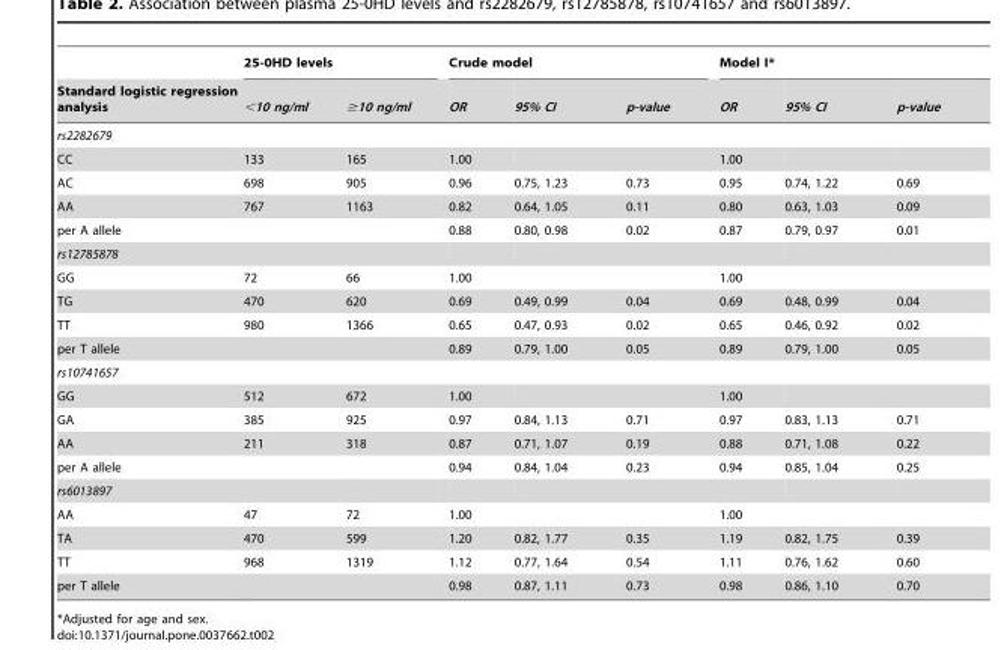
<table><thead><tr><td rowspan="2">Standard logistic regression analysis</td><td colspan="2">25-0HD levels</td><td colspan="3">Crude model</td><td colspan="3">Model I*</td></tr><tr><td>&lt;10 ng/ml</td><td>≥10 ng/ml</td><td>OR</td><td>95% CI</td><td>p-value</td><td>OR</td><td>95% CI</td><td>p-value</td></tr></thead><tbody><tr><td colspan="9">rs2282679</td></tr><tr><td>CC</td><td>133</td><td>165</td><td>1.00</td><td></td><td></td><td>1.00</td><td></td><td></td></tr><tr><td>AC</td><td>698</td><td>905</td><td>0.96</td><td>0.75, 1.23</td><td>0.73</td><td>0.95</td><td>0.74, 1.22</td><td>0.69</td></tr><tr><td>AA</td><td>767</td><td>1163</td><td>0.82</td><td>0.64, 1.05</td><td>0.11</td><td>0.80</td><td>0.63, 1.03</td><td>0.09</td></tr><tr><td>per A allele</td><td></td><td></td><td>0.88</td><td>0.80, 0.98</td><td>0.02</td><td>0.87</td><td>0.79, 0.97</td><td>0.01</td></tr><tr><td colspan="9">rs12785878</td></tr><tr><td>GG</td><td>72</td><td>66</td><td>1.00</td><td></td><td></td><td>1.00</td><td></td><td></td></tr><tr><td>TG</td><td>470</td><td>620</td><td>0.69</td><td>0.49, 0.99</td><td>0.04</td><td>0.69</td><td>0.48, 0.99</td><td>0.04</td></tr><tr><td>TT</td><td>980</td><td>1366</td><td>0.65</td><td>0.47, 0.93</td><td>0.02</td><td>0.65</td><td>0.46, 0.92</td><td>0.02</td></tr><tr><td>per T allele</td><td></td><td></td><td>0.89</td><td>0.79, 1.00</td><td>0.05</td><td>0.89</td><td>0.79, 1.00</td><td>0.05</td></tr><tr><td colspan="9">rs10741657</td></tr><tr><td>GG</td><td>512</td><td>672</td><td>1.00</td><td></td><td></td><td>1.00</td><td></td><td></td></tr><tr><td>GA</td><td>385</td><td>925</td><td>0.97</td><td>0.84, 1.13</td><td>0.71</td><td>0.97</td><td>0.83, 1.13</td><td>0.71</td></tr><tr><td>AA</td><td>211</td><td>318</td><td>0.87</td><td>0.71, 1.07</td><td>0.19</td><td>0.88</td><td>0.71, 1.08</td><td>0.22</td></tr><tr><td>per A allele</td><td></td><td></td><td>0.94</td><td>0.84, 1.04</td><td>0.23</td><td>0.94</td><td>0.85, 1.04</td><td>0.25</td></tr><tr><td colspan="9">rs6013897</td></tr><tr><td>AA</td><td>47</td><td>72</td><td>1.00</td><td></td><td></td><td>1.00</td><td></td><td></td></tr><tr><td>TA</td><td>470</td><td>599</td><td>1.20</td><td>0.82, 1.77</td><td>0.35</td><td>1.19</td><td>0.82, 1.75</td><td>0.39</td></tr><tr><td>TT</td><td>968</td><td>1319</td><td>1.12</td><td>0.77, 1.64</td><td>0.54</td><td>1.11</td><td>0.76, 1.62</td><td>0.60</td></tr><tr><td>per T allele</td><td></td><td></td><td>0.98</td><td>0.87, 1.11</td><td>0.73</td><td>0.98</td><td>0.86, 1.10</td><td>0.70</td></tr></tbody></table>